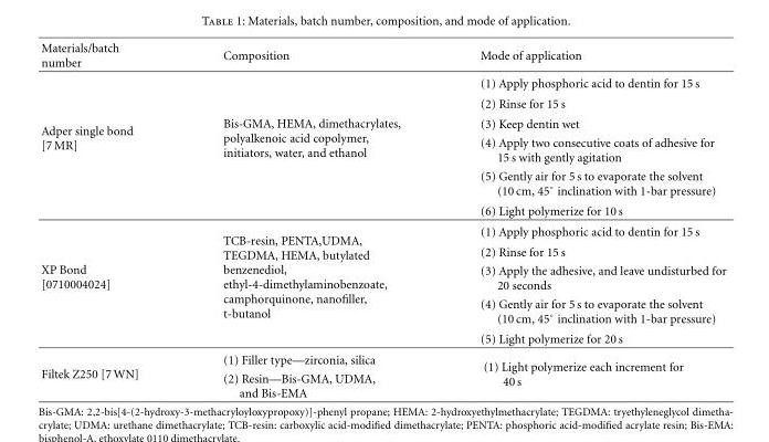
<table><thead><tr><td>Materials/batch number</td><td>Composition</td><td>Mode of application</td></tr></thead><tbody><tr><td rowspan="6">Adper single bond [7 MR]</td><td rowspan="6">Bis-GMA, HEMA, dimethacrylates, polyalkenoic acid copolymer, initiators, water, and ethanol</td><td>(1) Apply phosphoric acid to dentin for 15 s</td></tr><tr><td>(2) Rinse for 15 s</td></tr><tr><td>(3) Keep dentin wet</td></tr><tr><td>(4) Apply two consecutive coats of adhesive for 15 s with gently agitation</td></tr><tr><td>(5) Gently air for 5 s to evaporate the solvent (10 cm, 45◦ inclination with 1-bar pressure)</td></tr><tr><td>(6) Light polymerize for 10 s</td></tr><tr><td rowspan="5">XP Bond [0710004024]</td><td rowspan="5">TCB-resin, PENTA,UDMA, TEGDMA, HEMA, butylated benzenediol, ethyl-4-dimethylaminobenzoate, camphorquinone, nanofiller, t-butanol</td><td>(1) Apply phosphoric acid to dentin for 15 s</td></tr><tr><td>(2) Rinse for 15 s</td></tr><tr><td>(3) Apply the adhesive, and leave undisturbed for 20 seconds</td></tr><tr><td>(4) Gently air for 5 s to evaporate the solvent (10 cm, 45◦ inclination with 1-bar pressure)</td></tr><tr><td>(5) Light polymerize for 20 s</td></tr><tr><td rowspan="2">Filtek Z250 [7 WN]</td><td>(1) Filler type—zirconia, silica</td><td rowspan="2">(1) Light polymerize each increment for 40 s</td></tr><tr><td>(2) Resin—Bis-GMA, UDMA, and Bis-EMA</td></tr></tbody></table>